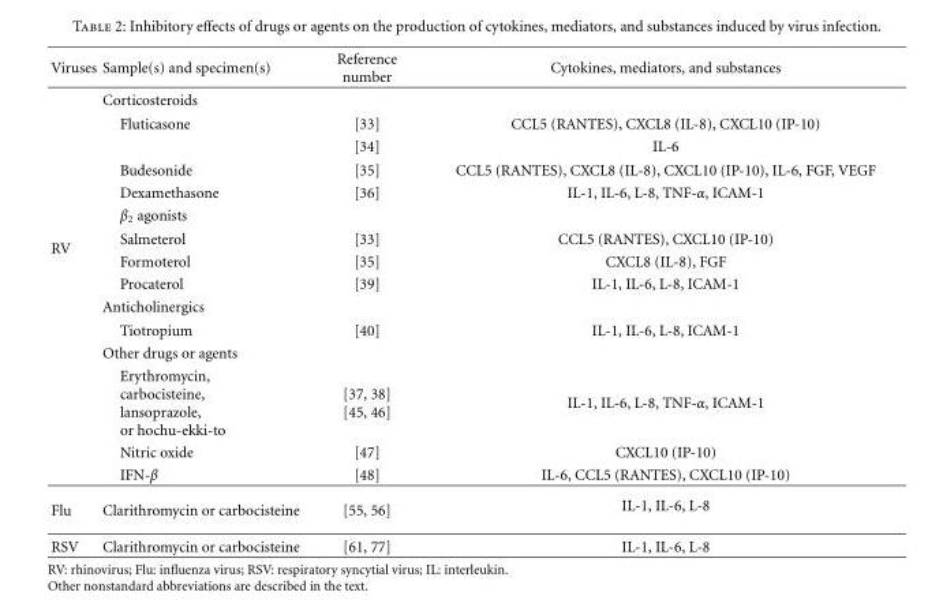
<table><thead><tr><td>Viruses</td><td>Sample(s) and specimen(s)</td><td>Reference number</td><td>Cytokines, mediators, and substances</td></tr></thead><tbody><tr><td rowspan="15">RV</td><td>Corticosteroids</td><td></td><td></td></tr><tr><td>Fluticasone</td><td>[33]</td><td>CCL5 (RANTES), CXCL8 (IL-8), CXCL10 (IP-10)</td></tr><tr><td></td><td>[34]</td><td>IL-6</td></tr><tr><td>Budesonide</td><td>[35]</td><td>CCL5 (RANTES), CXCL8 (IL-8), CXCL10 (IP-10), IL-6, FGF, VEGF</td></tr><tr><td>Dexamethasone</td><td>[36]</td><td>IL-1, IL-6, L-8, TNF-α, ICAM-1</td></tr><tr><td>β<sub>2</sub> agonists</td><td></td><td></td></tr><tr><td>Salmeterol</td><td>[33]</td><td>CCL5 (RANTES), CXCL10 (IP-10)</td></tr><tr><td>Formoterol</td><td>[35]</td><td>CXCL8 (IL-8), FGF</td></tr><tr><td>Procaterol</td><td>[39]</td><td>IL-1, IL-6, L-8, ICAM-1</td></tr><tr><td>Anticholinergics</td><td></td><td></td></tr><tr><td>Tiotropium</td><td>[40]</td><td>IL-1, IL-6, L-8, ICAM-1</td></tr><tr><td>Other drugs or agents</td><td></td><td></td></tr><tr><td>Erythromycin, carbocisteine, lansoprazole, or hochu-ekki-to</td><td>[37, 38] [45, 46]</td><td>IL-1, IL-6, L-8, TNF-α, ICAM-1</td></tr><tr><td>Nitric oxide</td><td>[47]</td><td>CXCL10 (IP-10)</td></tr><tr><td>IFN-β</td><td>[48]</td><td>IL-6, CCL5 (RANTES), CXCL10 (IP-10)</td></tr><tr><td>Flu</td><td>Clarithromycin or carbocisteine</td><td>[55, 56]</td><td>IL-1, IL-6, L-8</td></tr><tr><td>RSV</td><td>Clarithromycin or carbocisteine</td><td>[61, 77]</td><td>IL-1, IL-6, L-8</td></tr></tbody></table>